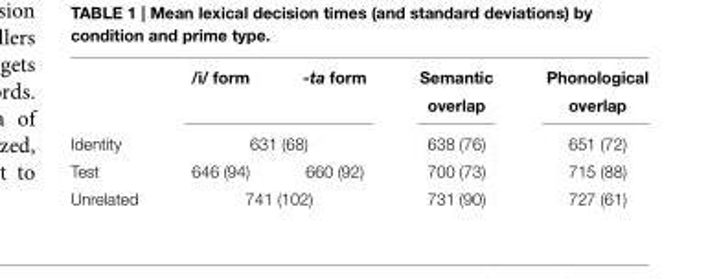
<table><thead><tr><td></td><td>/i/ form</td><td>-ta form</td><td>Semantic overlap</td><td>Phonological overlap</td></tr></thead><tbody><tr><td>Identity</td><td colspan="2">631 (68)</td><td>638 (76)</td><td>651 (72)</td></tr><tr><td>Test</td><td>646 (94)</td><td>660 (92)</td><td>700 (73)</td><td>715 (88)</td></tr><tr><td>Unrelated</td><td colspan="2">741 (102)</td><td>731 (90)</td><td>727 (61)</td></tr></tbody></table>